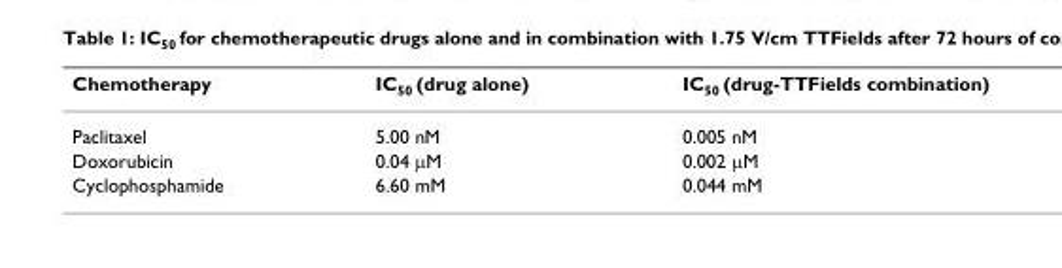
<table><thead><tr><td>Chemotherapy</td><td>IC<sub>50</sub> (drug alone)</td><td>IC<sub>50</sub> (drug-TTFields combination)</td></tr></thead><tbody><tr><td>Paclitaxel</td><td>5.00 nM</td><td>0.005 nM</td></tr><tr><td>Doxorubicin</td><td>0.04 μM</td><td>0.002 μM</td></tr><tr><td>Cyclophosphamide</td><td>6.60 mM</td><td>0.044 mM</td></tr></tbody></table>